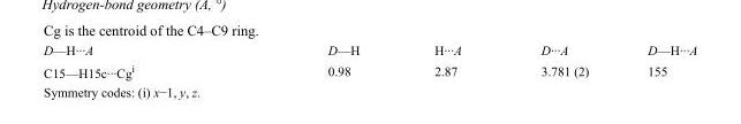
<table><tbody><tr><td>D—H···A</td><td>D—H</td><td>H···A</td><td>D···A</td><td>D—H···A</td></tr><tr><td>C15—H15c···Cg<sup>i</sup></td><td>0.98</td><td>2.87</td><td>3.781 (2)</td><td>155</td></tr></tbody></table>